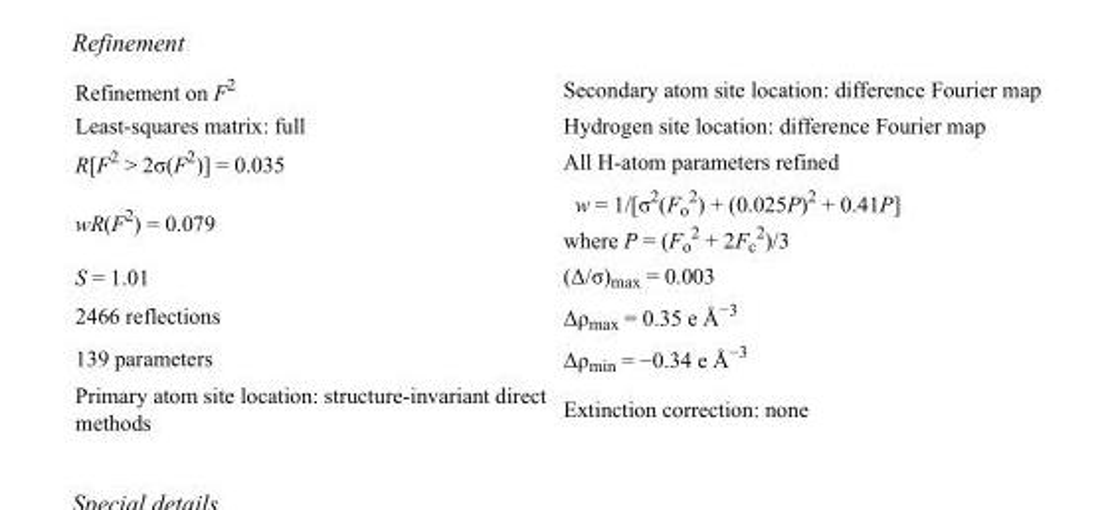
<table><tbody><tr><td>Refinement on F<sup>2</sup></td><td>Secondary atom site location: difference Fourier map</td></tr><tr><td>Least-squares matrix: full</td><td>Hydrogen site location: difference Fourier map</td></tr><tr><td>R[F<sup>2</sup> &gt; 2σ(F<sup>2</sup>)] = 0.035</td><td>All H-atom parameters refined</td></tr><tr><td>wR(F<sup>2</sup>) = 0.079</td><td>w = 1/[σ<sup>2</sup>(F<sub>o</sub> <sup>2</sup>) + (0.025P)<sup>2</sup> + 0.41P] where P = (F<sub>o</sub> <sup>2</sup> + 2F<sub>c</sub> <sup>2</sup>)/3</td></tr><tr><td>S = 1.01</td><td>(Δ/σ)<sub>max</sub> = 0.003</td></tr><tr><td>2466 reflections</td><td>Δρ<sub>max</sub> = 0.35 e Å<sup>−3</sup></td></tr><tr><td>139 parameters</td><td>Δρ<sub>min</sub> = −0.34 e Å<sup>−3</sup></td></tr><tr><td>Primary atom site location: structure-invariant direct methods</td><td>Extinction correction: none</td></tr></tbody></table>